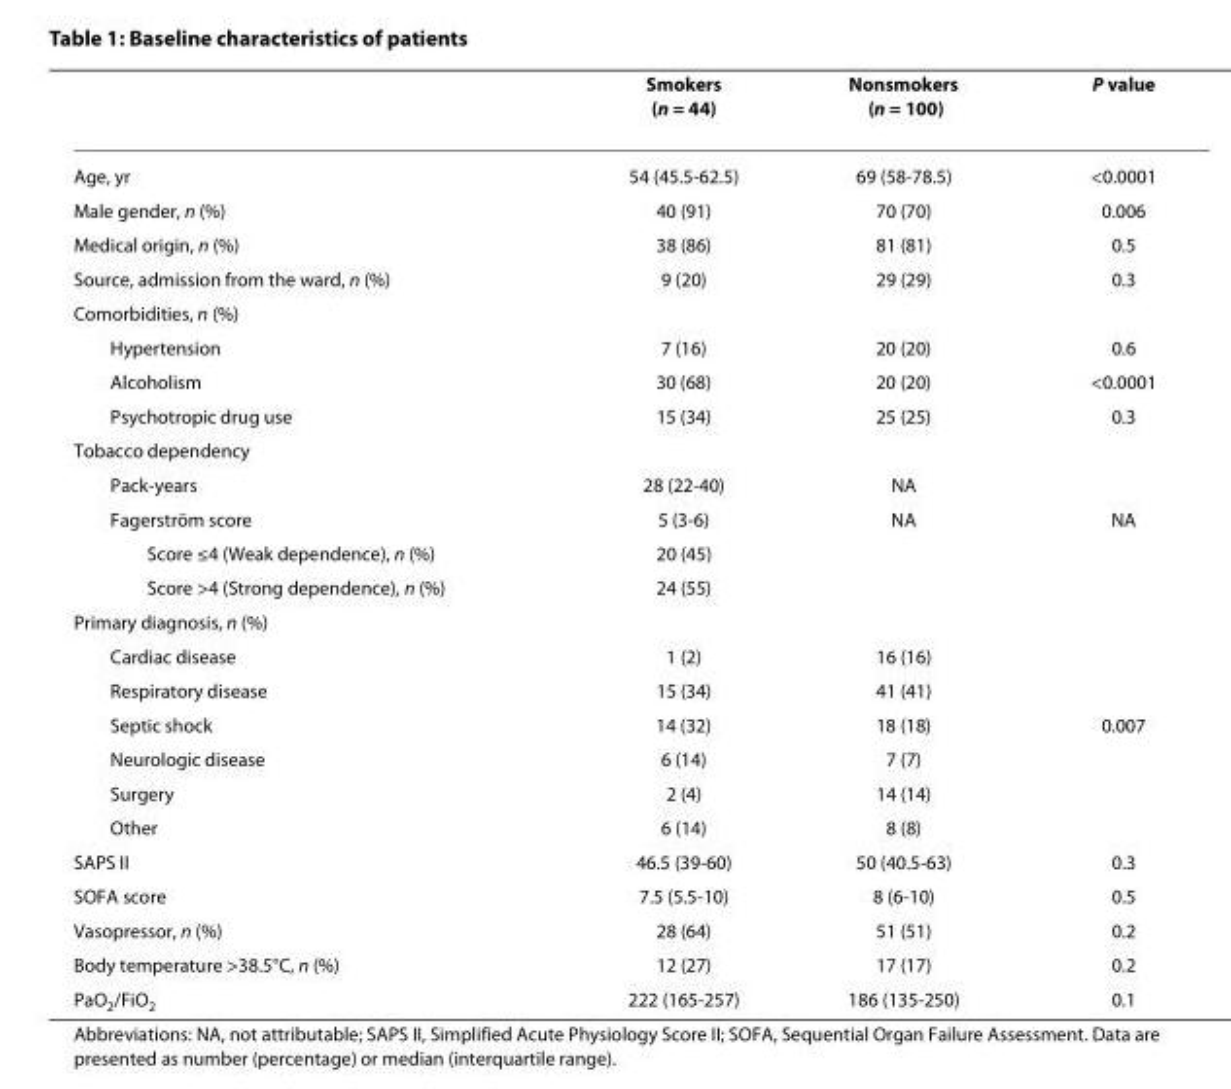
<table><thead><tr><td></td><td>Smokers (n = 44)</td><td>Nonsmokers (n = 100)</td><td>P value</td></tr></thead><tbody><tr><td>Age, yr</td><td>54 (45.5-62.5)</td><td>69 (58-78.5)</td><td>&lt;0.0001</td></tr><tr><td>Male gender, n (%)</td><td>40 (91)</td><td>70 (70)</td><td>0.006</td></tr><tr><td>Medical origin, n (%)</td><td>38 (86)</td><td>81 (81)</td><td>0.5</td></tr><tr><td>Source, admission from the ward, n (%)</td><td>9 (20)</td><td>29 (29)</td><td>0.3</td></tr><tr><td colspan="4">Comorbidities, n (%)</td></tr><tr><td>Hypertension</td><td>7 (16)</td><td>20 (20)</td><td>0.6</td></tr><tr><td>Alcoholism</td><td>30 (68)</td><td>20 (20)</td><td>&lt;0.0001</td></tr><tr><td>Psychotropic drug use</td><td>15 (34)</td><td>25 (25)</td><td>0.3</td></tr><tr><td colspan="4">Tobacco dependency</td></tr><tr><td>Pack-years</td><td>28 (22-40)</td><td>NA</td><td></td></tr><tr><td>Fagerström score</td><td>5 (3-6)</td><td>NA</td><td>NA</td></tr><tr><td>Score ≤4 (Weak dependence), n (%)</td><td>20 (45)</td><td></td><td></td></tr><tr><td>Score &gt;4 (Strong dependence), n (%)</td><td>24 (55)</td><td></td><td></td></tr><tr><td colspan="4">Primary diagnosis, n (%)</td></tr><tr><td>Cardiac disease</td><td>1 (2)</td><td>16 (16)</td><td></td></tr><tr><td>Respiratory disease</td><td>15 (34)</td><td>41 (41)</td><td></td></tr><tr><td>Septic shock</td><td>14 (32)</td><td>18 (18)</td><td>0.007</td></tr><tr><td>Neurologic disease</td><td>6 (14)</td><td>7 (7)</td><td></td></tr><tr><td>Surgery</td><td>2 (4)</td><td>14 (14)</td><td></td></tr><tr><td>Other</td><td>6 (14)</td><td>8 (8)</td><td></td></tr><tr><td>SAPS II</td><td>46.5 (39-60)</td><td>50 (40.5-63)</td><td>0.3</td></tr><tr><td>SOFA score</td><td>7.5 (5.5-10)</td><td>8 (6-10)</td><td>0.5</td></tr><tr><td>Vasopressor, n (%)</td><td>28 (64)</td><td>51 (51)</td><td>0.2</td></tr><tr><td>Body temperature &gt;38.5°C, n (%)</td><td>12 (27)</td><td>17 (17)</td><td>0.2</td></tr><tr><td>PaO<sub>2</sub>/FiO<sub>2</sub></td><td>222 (165-257)</td><td>186 (135-250)</td><td>0.1</td></tr></tbody></table>